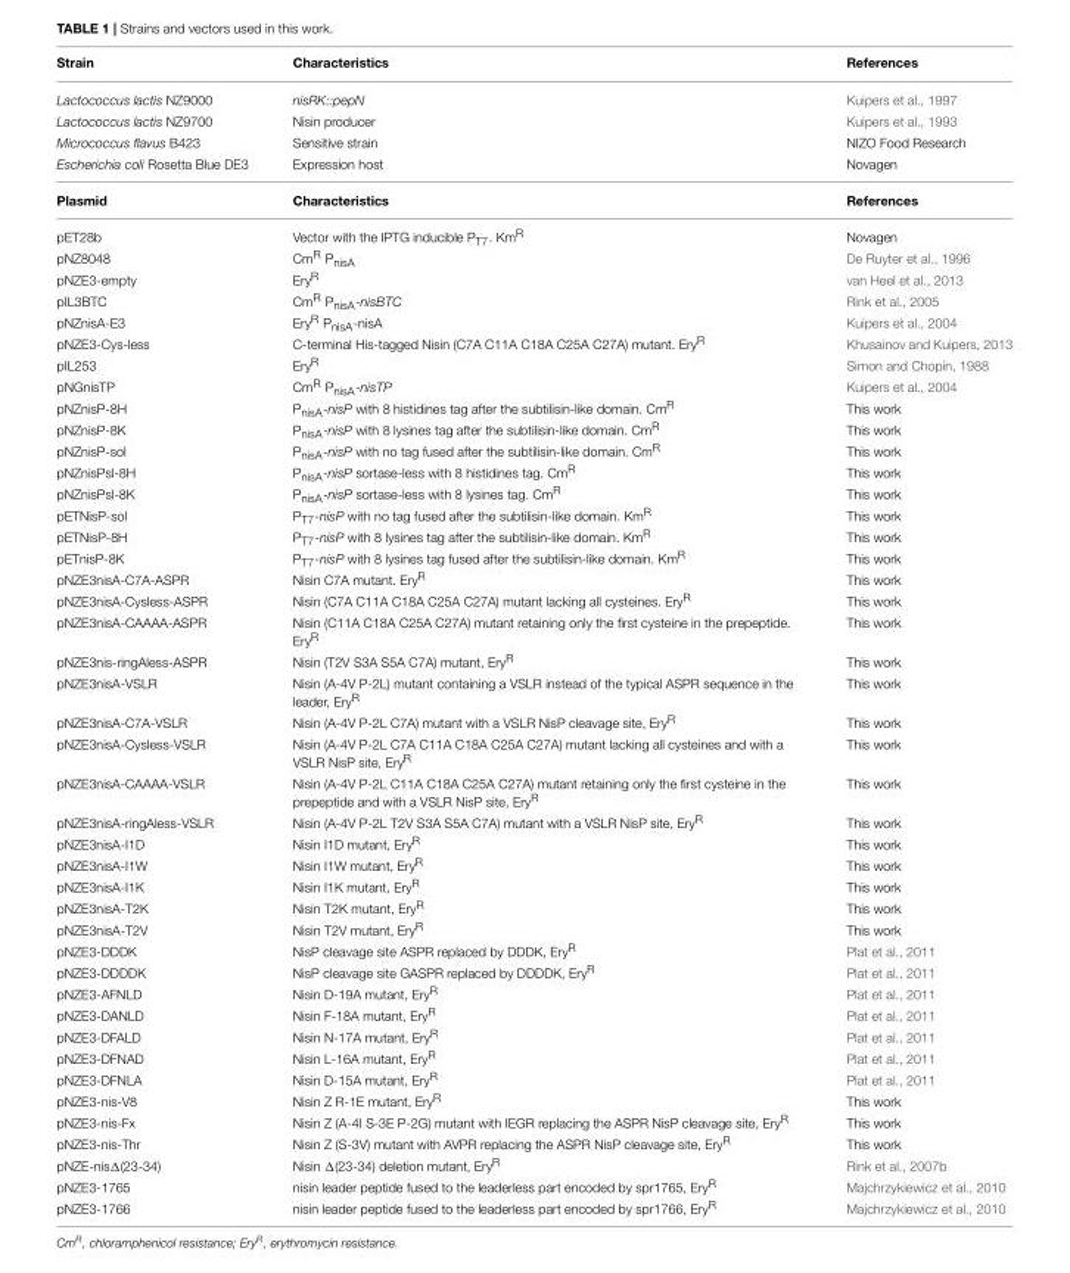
<table><thead><tr><td>Strain</td><td>Characteristics</td><td>References</td></tr></thead><tbody><tr><td>Lactococcus lactis NZ9000</td><td>nisRK::pepN</td><td>Kuipers et al., 1997</td></tr><tr><td>Lactococcus lactis NZ9700</td><td>Nisin producer</td><td>Kuipers et al., 1993</td></tr><tr><td>Micrococcus flavus B423</td><td>Sensitive strain</td><td>NIZO Food Research</td></tr><tr><td>Escherichia coli Rosetta Blue DE3</td><td>Expression host</td><td>Novagen</td></tr><tr><td>Plasmid</td><td>Characteristics</td><td>References</td></tr><tr><td>pET28b</td><td>Vector with the IPTG inducible P<sub>T7</sub>. Km<sup>R</sup></td><td>Novagen</td></tr><tr><td>pNZ8048</td><td>Cm<sup>R</sup> P<sub>nisA</sub></td><td>De Ruyter et al., 1996</td></tr><tr><td>pNZE3-empty</td><td>Ery<sup>R</sup></td><td>van Heel et al., 2013</td></tr><tr><td>pIL3BTC</td><td>Cm<sup>R</sup> P<sub>nisA</sub>-nisBTC</td><td>Rink et al., 2005</td></tr><tr><td>pNZnisA-E3</td><td>Ery<sup>R</sup> P<sub>nisA</sub>-nisA</td><td>Kuipers et al., 2004</td></tr><tr><td>pNZE3-Cys-less</td><td>C-terminal His-tagged Nisin (C7A C11A C18A C25A C27A) mutant. Ery<sup>R</sup></td><td>Khusainov and Kuipers, 2013</td></tr><tr><td>pIL253</td><td>Ery<sup>R</sup></td><td>Simon and Chopin, 1988</td></tr><tr><td>pNGnisTP</td><td>Cm<sup>R</sup> P<sub>nisA</sub>-nisTP</td><td>Kuipers et al., 2004</td></tr><tr><td>pNZnisP-8H</td><td>P<sub>nisA</sub>-nisP with 8 histidines tag after the subtilisin-like domain. Cm<sup>R</sup></td><td>This work</td></tr><tr><td>pNZnisP-8K</td><td>P<sub>nisA</sub>-nisP with 8 lysines tag after the subtilisin-like domain. Cm<sup>R</sup></td><td>This work</td></tr><tr><td>pNZnisP-sol</td><td>P<sub>nisA</sub>-nisP with no tag fused after the subtilisin-like domain. Cm<sup>R</sup></td><td>This work</td></tr><tr><td>pNZnisPsl-8H</td><td>P<sub>nisA</sub>-nisP sortase-less with 8 histidines tag. Cm<sup>R</sup></td><td>This work</td></tr><tr><td>pNZnisPsl-8K</td><td>P<sub>nisA</sub>-nisP sortase-less with 8 lysines tag. Cm<sup>R</sup></td><td>This work</td></tr><tr><td>pETNisP-sol</td><td>P<sub>T7</sub>-nisP with no tag fused after the subtilisin-like domain. Km<sup>R</sup></td><td>This work</td></tr><tr><td>pETNisP-8H</td><td>P<sub>T7</sub>-nisP with 8 lysines tag after the subtilisin-like domain. Km<sup>R</sup></td><td>This work</td></tr><tr><td>pETnisP-8K</td><td>P<sub>T7</sub>-nisP with 8 lysines tag fused after the subtilisin-like domain. Km<sup>R</sup></td><td>This work</td></tr><tr><td>pNZE3nisA-C7A-ASPR</td><td>Nisin C7A mutant. Ery<sup>R</sup></td><td>This work</td></tr><tr><td>pNZE3nisA-Cysless-ASPR</td><td>Nisin (C7A C11A C18A C25A C27A) mutant lacking all cysteines. Ery<sup>R</sup></td><td>This work</td></tr><tr><td>pNZE3nisA-CAAAA-ASPR</td><td>Nisin (C11A C18A C25A C27A) mutant retaining only the first cysteine in the prepeptide. Ery<sup>R</sup></td><td>This work</td></tr><tr><td>pNZE3nis-ringAless-ASPR</td><td>Nisin (T2V S3A S5A C7A) mutant, Ery<sup>R</sup></td><td>This work</td></tr><tr><td>pNZE3nisA-VSLR</td><td>Nisin (A-4V P-2L) mutant containing a VSLR instead of the typical ASPR sequence in the leader, Ery<sup>R</sup></td><td>This work</td></tr><tr><td>pNZE3nisA-C7A-VSLR</td><td>Nisin (A-4V P-2L C7A) mutant with a VSLR NisP cleavage site, Ery<sup>R</sup></td><td>This work</td></tr><tr><td>pNZE3nisA-Cysless-VSLR</td><td>Nisin (A-4V P-2L C7A C11A C18A C25A C27A) mutant lacking all cysteines and with a VSLR NisP site, Ery<sup>R</sup></td><td>This work</td></tr><tr><td>pNZE3nisA-CAAAA-VSLR</td><td>Nisin (A-4V P-2L C11A C18A C25A C27A) mutant retaining only the first cysteine in the prepeptide and with a VSLR NisP site, Ery<sup>R</sup></td><td>This work</td></tr><tr><td>pNZE3nisA-ringAless-VSLR</td><td>Nisin (A-4V P-2L T2V S3A S5A C7A) mutant with a VSLR NisP site, Ery<sup>R</sup></td><td>This work</td></tr><tr><td>pNZE3nisA-I1D</td><td>Nisin I1D mutant, Ery<sup>R</sup></td><td>This work</td></tr><tr><td>pNZE3nisA-I1W</td><td>Nisin I1W mutant, Ery<sup>R</sup></td><td>This work</td></tr><tr><td>pNZE3nisA-I1K</td><td>Nisin I1K mutant, Ery<sup>R</sup></td><td>This work</td></tr><tr><td>pNZE3nisA-T2K</td><td>Nisin T2K mutant, Ery<sup>R</sup></td><td>This work</td></tr><tr><td>pNZE3nisA-T2V</td><td>Nisin T2V mutant, Ery<sup>R</sup></td><td>This work</td></tr><tr><td>pNZE3-DDDK</td><td>NisP cleavage site ASPR replaced by DDDK, Ery<sup>R</sup></td><td>Plat et al., 2011</td></tr><tr><td>pNZE3-DDDDK</td><td>NisP cleavage site GASPR replaced by DDDDK, Ery<sup>R</sup></td><td>Plat et al., 2011</td></tr><tr><td>pNZE3-AFNLD</td><td>Nisin D-19A mutant, Ery<sup>R</sup></td><td>Plat et al., 2011</td></tr><tr><td>pNZE3-DANLD</td><td>Nisin F-18A mutant, Ery<sup>R</sup></td><td>Plat et al., 2011</td></tr><tr><td>pNZE3-DFALD</td><td>Nisin N-17A mutant, Ery<sup>R</sup></td><td>Plat et al., 2011</td></tr><tr><td>pNZE3-DFNAD</td><td>Nisin L-16A mutant, Ery<sup>R</sup></td><td>Plat et al., 2011</td></tr><tr><td>pNZE3-DFNLA</td><td>Nisin D-15A mutant, Ery<sup>R</sup></td><td>Plat et al., 2011</td></tr><tr><td>pNZE3-nis-V8</td><td>Nisin Z R-1E mutant, Ery<sup>R</sup></td><td>This work</td></tr><tr><td>pNZE3-nis-Fx</td><td>Nisin Z (A-4I S-3E P-2G) mutant with IEGR replacing the ASPR NisP cleavage site, Ery<sup>R</sup></td><td>This work</td></tr><tr><td>pNZE3-nis-Thr</td><td>Nisin Z (S-3V) mutant with AVPR replacing the ASPR NisP cleavage site, Ery<sup>R</sup></td><td>This work</td></tr><tr><td>pNZE-nisΔ(23-34)</td><td>Nisin Δ(23-34) deletion mutant, Ery<sup>R</sup></td><td>Rink et al., 2007b</td></tr><tr><td>pNZE3-1765</td><td>nisin leader peptide fused to the leaderless part encoded by spr1765, Ery<sup>R</sup></td><td>Majchrzykiewicz et al., 2010</td></tr><tr><td>pNZE3-1766</td><td>nisin leader peptide fused to the leaderless part encoded by spr1766, Ery<sup>R</sup></td><td>Majchrzykiewicz et al., 2010</td></tr></tbody></table>